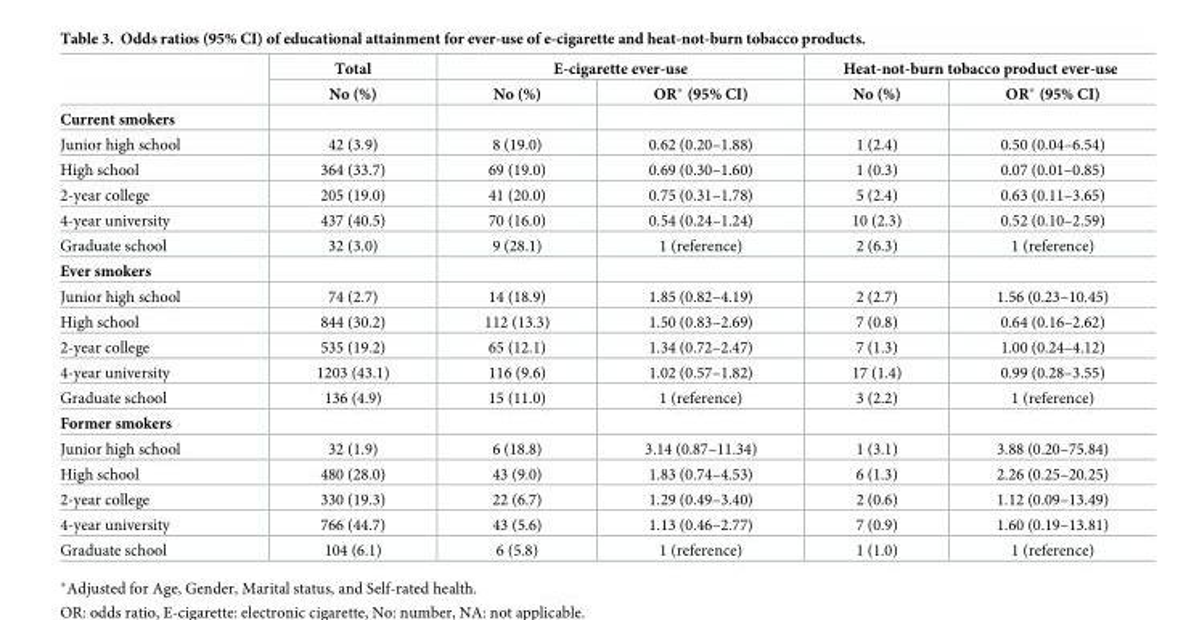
<table><thead><tr><td rowspan="2"></td><td rowspan="2">Total No (%)</td><td colspan="2">E-cigarette ever-use</td><td colspan="2">Heat-not-burn tobacco product ever-use</td></tr><tr><td>No (%)</td><td>OR* (95% CI)</td><td>No (%)</td><td>OR* (95% CI)</td></tr></thead><tbody><tr><td colspan="6">Current smokers</td></tr><tr><td>Junior high school</td><td>42 (3.9)</td><td>8 (19.0)</td><td>0.62 (0.20–1.88)</td><td>1 (2.4)</td><td>0.50 (0.04–6.54)</td></tr><tr><td>High school</td><td>364 (33.7)</td><td>69 (19.0)</td><td>0.69 (0.30–1.60)</td><td>1 (0.3)</td><td>0.07 (0.01–0.85)</td></tr><tr><td>2-year college</td><td>205 (19.0)</td><td>41 (20.0)</td><td>0.75 (0.31–1.78)</td><td>5 (2.4)</td><td>0.63 (0.11–3.65)</td></tr><tr><td>4-year university</td><td>437 (40.5)</td><td>70 (16.0)</td><td>0.54 (0.24–1.24)</td><td>10 (2.3)</td><td>0.52 (0.10–2.59)</td></tr><tr><td>Graduate school</td><td>32 (3.0)</td><td>9 (28.1)</td><td>1 (reference)</td><td>2 (6.3)</td><td>1 (reference)</td></tr><tr><td colspan="6">Ever smokers</td></tr><tr><td>Junior high school</td><td>74 (2.7)</td><td>14 (18.9)</td><td>1.85 (0.82–4.19)</td><td>2 (2.7)</td><td>1.56 (0.23–10.45)</td></tr><tr><td>High school</td><td>844 (30.2)</td><td>112 (13.3)</td><td>1.50 (0.83–2.69)</td><td>7 (0.8)</td><td>0.64 (0.16–2.62)</td></tr><tr><td>2-year college</td><td>535 (19.2)</td><td>65 (12.1)</td><td>1.34 (0.72–2.47)</td><td>7 (1.3)</td><td>1.00 (0.24–4.12)</td></tr><tr><td>4-year university</td><td>1203 (43.1)</td><td>116 (9.6)</td><td>1.02 (0.57–1.82)</td><td>17 (1.4)</td><td>0.99 (0.28–3.55)</td></tr><tr><td>Graduate school</td><td>136 (4.9)</td><td>15 (11.0)</td><td>1 (reference)</td><td>3 (2.2)</td><td>1 (reference)</td></tr><tr><td colspan="6">Former smokers</td></tr><tr><td>Junior high school</td><td>32 (1.9)</td><td>6 (18.8)</td><td>3.14 (0.87–11.34)</td><td>1 (3.1)</td><td>3.88 (0.20–75.84)</td></tr><tr><td>High school</td><td>480 (28.0)</td><td>43 (9.0)</td><td>1.83 (0.74–4.53)</td><td>6 (1.3)</td><td>2.26 (0.25–20.25)</td></tr><tr><td>2-year college</td><td>330 (19.3)</td><td>22 (6.7)</td><td>1.29 (0.49–3.40)</td><td>2 (0.6)</td><td>1.12 (0.09–13.49)</td></tr><tr><td>4-year university</td><td>766 (44.7)</td><td>43 (5.6)</td><td>1.13 (0.46–2.77)</td><td>7 (0.9)</td><td>1.60 (0.19–13.81)</td></tr><tr><td>Graduate school</td><td>104 (6.1)</td><td>6 (5.8)</td><td>1 (reference)</td><td>1 (1.0)</td><td>1 (reference)</td></tr></tbody></table>